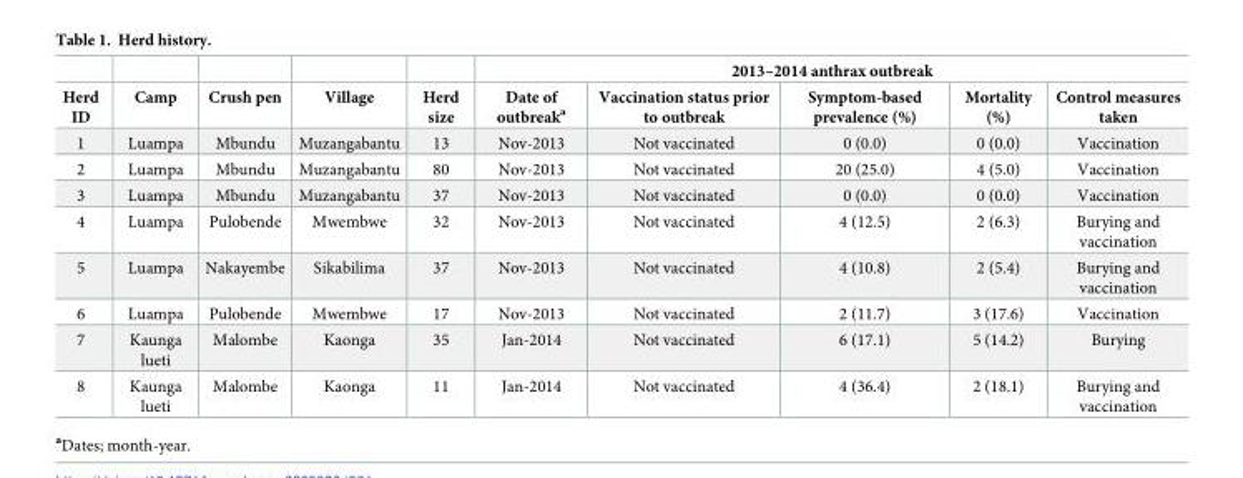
<table><thead><tr><td rowspan="2">Herd ID</td><td rowspan="2">Camp</td><td rowspan="2">Crush pen</td><td rowspan="2">Village</td><td rowspan="2">Herd size</td><td colspan="5">2013–2014 anthrax outbreak</td></tr><tr><td>Date of outbreak<sup>a</sup></td><td>Vaccination status prior to outbreak</td><td>Symptom-based prevalence (%)</td><td>Mortality (%)</td><td>Control measures taken</td></tr></thead><tbody><tr><td>1</td><td>Luampa</td><td>Mbundu</td><td>Muzangabantu</td><td>13</td><td>Nov-2013</td><td>Not vaccinated</td><td>0 (0.0)</td><td>0 (0.0)</td><td>Vaccination</td></tr><tr><td>2</td><td>Luampa</td><td>Mbundu</td><td>Muzangabantu</td><td>80</td><td>Nov-2013</td><td>Not vaccinated</td><td>20 (25.0)</td><td>4 (5.0)</td><td>Vaccination</td></tr><tr><td>3</td><td>Luampa</td><td>Mbundu</td><td>Muzangabantu</td><td>37</td><td>Nov-2013</td><td>Not vaccinated</td><td>0 (0.0)</td><td>0 (0.0)</td><td>Vaccination</td></tr><tr><td>4</td><td>Luampa</td><td>Pulobende</td><td>Mwembwe</td><td>32</td><td>Nov-2013</td><td>Not vaccinated</td><td>4 (12.5)</td><td>2 (6.3)</td><td>Burying and vaccination</td></tr><tr><td>5</td><td>Luampa</td><td>Nakayembe</td><td>Sikabilima</td><td>37</td><td>Nov-2013</td><td>Not vaccinated</td><td>4 (10.8)</td><td>2 (5.4)</td><td>Burying and vaccination</td></tr><tr><td>6</td><td>Luampa</td><td>Pulobende</td><td>Mwembwe</td><td>17</td><td>Nov-2013</td><td>Not vaccinated</td><td>2 (11.7)</td><td>3 (17.6)</td><td>Vaccination</td></tr><tr><td>7</td><td>Kaunga lueti</td><td>Malombe</td><td>Kaonga</td><td>35</td><td>Jan-2014</td><td>Not vaccinated</td><td>6 (17.1)</td><td>5 (14.2)</td><td>Burying</td></tr><tr><td>8</td><td>Kaunga lueti</td><td>Malombe</td><td>Kaonga</td><td>11</td><td>Jan-2014</td><td>Not vaccinated</td><td>4 (36.4)</td><td>2 (18.1)</td><td>Burying and vaccination</td></tr></tbody></table>